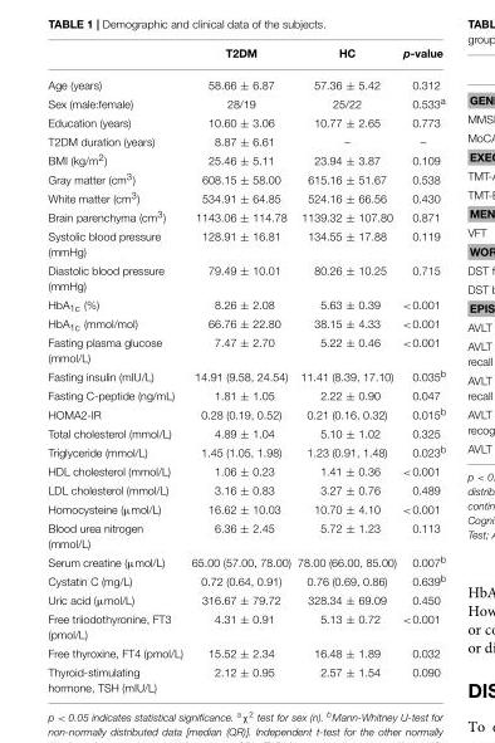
<table><thead><tr><td></td><td>T2DM</td><td>HC</td><td>p-value</td></tr></thead><tbody><tr><td>Age (years)</td><td>58.66 ± 6.87</td><td>57.36 ± 5.42</td><td>0.312</td></tr><tr><td>Sex (male:female)</td><td>28/19</td><td>25/22</td><td>0.533<sup>a</sup></td></tr><tr><td>Education (years)</td><td>10.60 ± 3.06</td><td>10.77 ± 2.65</td><td>0.773</td></tr><tr><td>T2DM duration (years)</td><td>8.87 ± 6.61</td><td>–</td><td>–</td></tr><tr><td>BMI (kg/m<sup>2</sup>)</td><td>25.46 ± 5.11</td><td>23.94 ± 3.87</td><td>0.109</td></tr><tr><td>Gray matter (cm<sup>3</sup>)</td><td>608.15 ± 58.00</td><td>615.16 ± 51.67</td><td>0.538</td></tr><tr><td>White matter (cm<sup>3</sup>)</td><td>534.91 ± 64.85</td><td>524.16 ± 66.56</td><td>0.430</td></tr><tr><td>Brain parenchyma (cm<sup>3</sup>)</td><td>1143.06 ± 114.78</td><td>1139.32 ± 107.80</td><td>0.871</td></tr><tr><td>Systolic blood pressure (mmHg)</td><td>128.91 ± 16.81</td><td>134.55 ± 17.88</td><td>0.119</td></tr><tr><td>Diastolic blood pressure (mmHg)</td><td>79.49 ± 10.01</td><td>80.26 ± 10.25</td><td>0.715</td></tr><tr><td>HbA<sub>1c</sub> (%)</td><td>8.26 ± 2.08</td><td>5.63 ± 0.39</td><td>&lt;0.001</td></tr><tr><td>HbA<sub>1c</sub> (mmol/mol)</td><td>66.76 ± 22.80</td><td>38.15 ± 4.33</td><td>&lt;0.001</td></tr><tr><td>Fasting plasma glucose (mmol/L)</td><td>7.47 ± 2.70</td><td>5.22 ± 0.46</td><td>&lt;0.001</td></tr><tr><td>Fasting insulin (mIU/L)</td><td>14.91 (9.58, 24.54)</td><td>11.41 (8.39, 17.10)</td><td>0.035<sup>b</sup></td></tr><tr><td>Fasting C-peptide (ng/mL)</td><td>1.81 ± 1.05</td><td>2.22 ± 0.90</td><td>0.047</td></tr><tr><td>HOMA2-IR</td><td>0.28 (0.19, 0.52)</td><td>0.21 (0.16, 0.32)</td><td>0.015<sup>b</sup></td></tr><tr><td>Total cholesterol (mmol/L)</td><td>4.89 ± 1.04</td><td>5.10 ± 1.02</td><td>0.325</td></tr><tr><td>Triglyceride (mmol/L)</td><td>1.45 (1.05, 1.98)</td><td>1.23 (0.91, 1.48)</td><td>0.023<sup>b</sup></td></tr><tr><td>HDL cholesterol (mmol/L)</td><td>1.06 ± 0.23</td><td>1.41 ± 0.36</td><td>&lt;0.001</td></tr><tr><td>LDL cholesterol (mmol/L)</td><td>3.16 ± 0.83</td><td>3.27 ± 0.76</td><td>0.489</td></tr><tr><td>Homocysteine (µmol/L)</td><td>16.62 ± 10.03</td><td>10.70 ± 4.10</td><td>&lt;0.001</td></tr><tr><td>Blood urea nitrogen (mmol/L)</td><td>6.36 ± 2.45</td><td>5.72 ± 1.23</td><td>0.113</td></tr><tr><td>Serum creatine (µmol/L)</td><td>65.00 (57.00, 78.00)</td><td>78.00 (66.00, 85.00)</td><td>0.007<sup>b</sup></td></tr><tr><td>Cystatin C (mg/L)</td><td>0.72 (0.64, 0.91)</td><td>0.76 (0.69, 0.86)</td><td>0.639<sup>b</sup></td></tr><tr><td>Uric acid (µmol/L)</td><td>316.67 ± 79.72</td><td>328.34 ± 69.09</td><td>0.450</td></tr><tr><td>Free triiodothyronine, FT3 (pmol/L)</td><td>4.31 ± 0.91</td><td>5.13 ± 0.72</td><td>&lt;0.001</td></tr><tr><td>Free thyroxine, FT4 (pmol/L)</td><td>15.52 ± 2.34</td><td>16.48 ± 1.89</td><td>0.032</td></tr><tr><td>Thyroid-stimulating hormone, TSH (mIU/L)</td><td>2.12 ± 0.95</td><td>2.57 ± 1.54</td><td>0.090</td></tr></tbody></table>